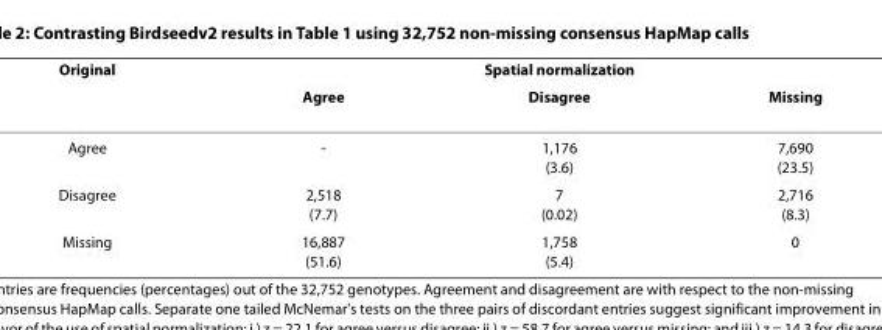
<table><thead><tr><td rowspan="2">Original</td><td colspan="3">Spatial normalization</td></tr><tr><td>Agree</td><td>Disagree</td><td>Missing</td></tr></thead><tbody><tr><td>Agree</td><td>-</td><td>1,176 (3.6)</td><td>7,690 (23.5)</td></tr><tr><td>Disagree</td><td>2,518 (7.7)</td><td>7 (0.02)</td><td>2,716 (8.3)</td></tr><tr><td>Missing</td><td>16,887 (51.6)</td><td>1,758 (5.4)</td><td>0</td></tr></tbody></table>